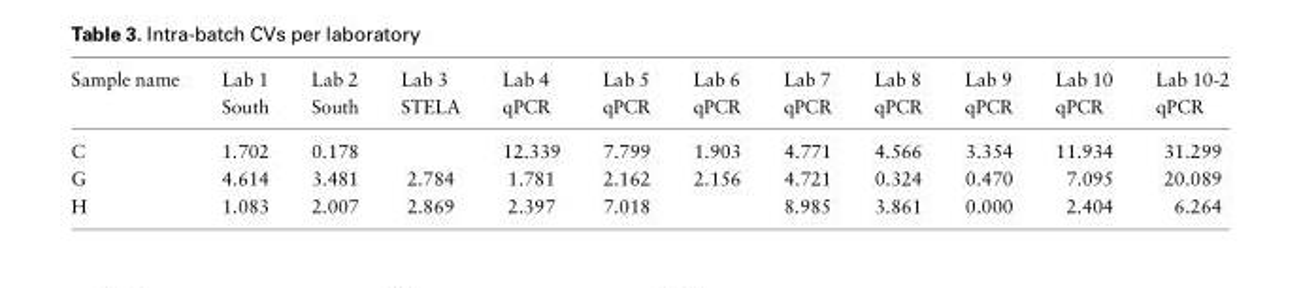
<table><thead><tr><td rowspan="2">Sample name</td><td rowspan="2">Lab 1 South</td><td rowspan="2">Lab 2 South</td><td rowspan="2">Lab 3 STELA</td><td rowspan="2">Lab 4 qPCR</td><td rowspan="2">Lab 5 qPCR</td><td rowspan="2">Lab 6 qPCR</td><td rowspan="2">Lab 7 qPCR</td><td rowspan="2">Lab 8 qPCR</td><td rowspan="2">Lab 9 qPCR</td><td rowspan="2">Lab 10 qPCR</td><td rowspan="2">Lab 10-2 qPCR</td></tr><tr></tr></thead><tbody><tr><td>C</td><td>1.702</td><td>0.178</td><td></td><td>12.339</td><td>7.799</td><td>1.903</td><td>4.771</td><td>4.566</td><td>3.354</td><td>11.934</td><td>31.299</td></tr><tr><td>G</td><td>4.614</td><td>3.481</td><td>2.784</td><td>1.781</td><td>2.162</td><td>2.156</td><td>4.721</td><td>0.324</td><td>0.470</td><td>7.095</td><td>20.089</td></tr><tr><td>H</td><td>1.083</td><td>2.007</td><td>2.869</td><td>2.397</td><td>7.018</td><td></td><td>8.985</td><td>3.861</td><td>0.000</td><td>2.404</td><td>6.264</td></tr></tbody></table>